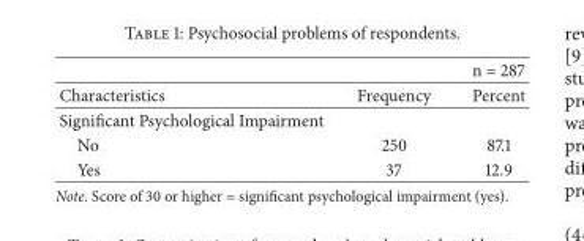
<table><thead><tr><td></td><td></td><td>n = 287</td></tr></thead><tbody><tr><td>Characteristics</td><td>Frequency</td><td>Percent</td></tr><tr><td colspan="3">Significant Psychological Impairment</td></tr><tr><td>No</td><td>250</td><td>87.1</td></tr><tr><td>Yes</td><td>37</td><td>12.9</td></tr></tbody></table>